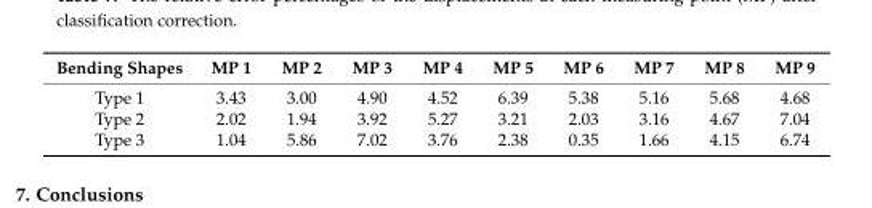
<table><thead><tr><td>Bending Shapes</td><td>MP 1</td><td>MP 2</td><td>MP 3</td><td>MP 4</td><td>MP 5</td><td>MP 6</td><td>MP 7</td><td>MP 8</td><td>MP 9</td></tr></thead><tbody><tr><td>Type 1</td><td>3.43</td><td>3.00</td><td>4.90</td><td>4.52</td><td>6.39</td><td>5.38</td><td>5.16</td><td>5.68</td><td>4.68</td></tr><tr><td>Type 2</td><td>2.02</td><td>1.94</td><td>3.92</td><td>5.27</td><td>3.21</td><td>2.03</td><td>3.16</td><td>4.67</td><td>7.04</td></tr><tr><td>Type 3</td><td>1.04</td><td>5.86</td><td>7.02</td><td>3.76</td><td>2.38</td><td>0.35</td><td>1.66</td><td>4.15</td><td>6.74</td></tr></tbody></table>